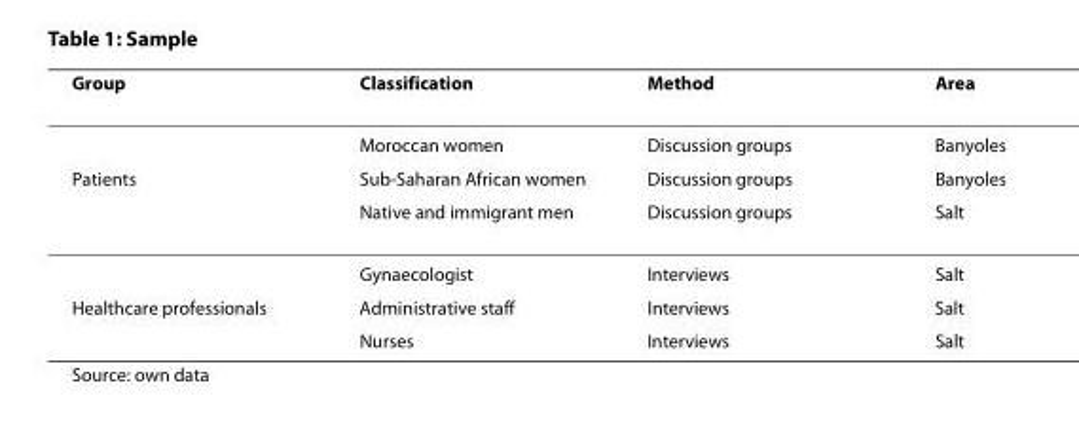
<table><thead><tr><td>Group</td><td>Classification</td><td>Method</td><td>Area</td></tr></thead><tbody><tr><td></td><td>Moroccan women</td><td>Discussion groups</td><td>Banyoles</td></tr><tr><td rowspan="3">Patients</td><td>Sub-Saharan African women</td><td>Discussion groups</td><td>Banyoles</td></tr><tr><td>Native and immigrant men</td><td>Discussion groups</td><td>Salt</td></tr><tr><td>Gynaecologist</td><td>Interviews</td><td>Salt</td></tr><tr><td rowspan="2">Healthcare professionals</td><td>Administrative staff</td><td>Interviews</td><td>Salt</td></tr><tr><td>Nurses</td><td>Interviews</td><td>Salt</td></tr></tbody></table>